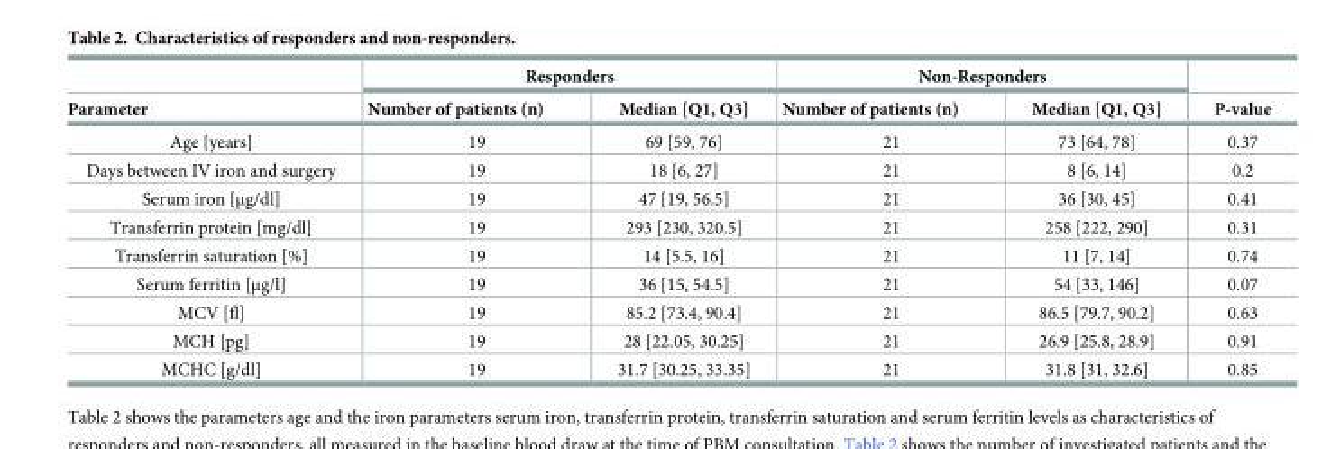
<table><thead><tr><td rowspan="2">Parameter</td><td colspan="2">Responders</td><td colspan="2">Non-Responders</td><td rowspan="2">P-value</td></tr><tr><td>Number of patients (n)</td><td>Median [Q1, Q3]</td><td>Number of patients (n)</td><td>Median [Q1, Q3]</td></tr></thead><tbody><tr><td>Age [years]</td><td>19</td><td>69 [59, 76]</td><td>21</td><td>73 [64, 78]</td><td>0.37</td></tr><tr><td>Days between IV iron and surgery</td><td>19</td><td>18 [6, 27]</td><td>21</td><td>8 [6, 14]</td><td>0.2</td></tr><tr><td>Serum iron [μg/dl]</td><td>19</td><td>47 [19, 56.5]</td><td>21</td><td>36 [30, 45]</td><td>0.41</td></tr><tr><td>Transferrin protein [mg/dl]</td><td>19</td><td>293 [230, 320.5]</td><td>21</td><td>258 [222, 290]</td><td>0.31</td></tr><tr><td>Transferrin saturation [%]</td><td>19</td><td>14 [5.5, 16]</td><td>21</td><td>11 [7, 14]</td><td>0.74</td></tr><tr><td>Serum ferritin [μg/l]</td><td>19</td><td>36 [15, 54.5]</td><td>21</td><td>54 [33, 146]</td><td>0.07</td></tr><tr><td>MCV [fl]</td><td>19</td><td>85.2 [73.4, 90.4]</td><td>21</td><td>86.5 [79.7, 90.2]</td><td>0.63</td></tr><tr><td>MCH [pg]</td><td>19</td><td>28 [22.05, 30.25]</td><td>21</td><td>26.9 [25.8, 28.9]</td><td>0.91</td></tr><tr><td>MCHC [g/dl]</td><td>19</td><td>31.7 [30.25, 33.35]</td><td>21</td><td>31.8 [31, 32.6]</td><td>0.85</td></tr></tbody></table>